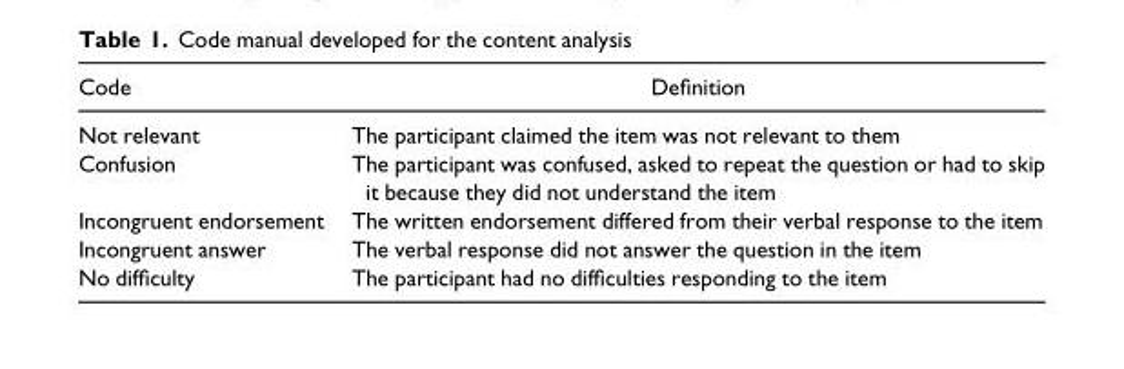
<table><thead><tr><td>Code</td><td>Definition</td></tr></thead><tbody><tr><td>Not relevant</td><td>The participant claimed the item was not relevant to them</td></tr><tr><td>Confusion</td><td>The participant was confused, asked to repeat the question or had to skip it because they did not understand the item</td></tr><tr><td>Incongruent endorsement</td><td>The written endorsement differed from their verbal response to the item</td></tr><tr><td>Incongruent answer</td><td>The verbal response did not answer the question in the item</td></tr><tr><td>No difficulty</td><td>The participant had no difficulties responding to the item</td></tr></tbody></table>